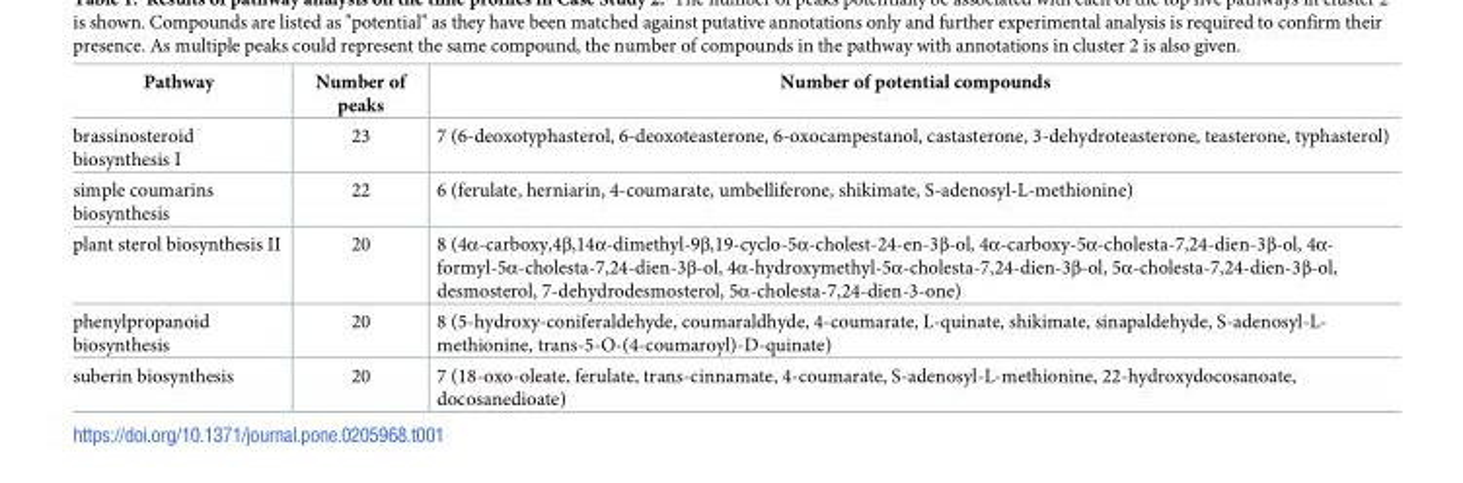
<table><thead><tr><td>Pathway</td><td>Number of peaks</td><td>Number of potential compounds</td></tr></thead><tbody><tr><td>brassinosteroid biosynthesis I</td><td>23</td><td>7 (6-deoxotyphasterol, 6-deoxoteasterone, 6-oxocampestanol, castasterone, 3-dehydroteasterone, teasterone, typhasterol)</td></tr><tr><td>simple coumarins biosynthesis</td><td>22</td><td>6 (ferulate, herniarin, 4-coumarate, umbelliferone, shikimate, S-adenosyl-L-methionine)</td></tr><tr><td>plant sterol biosynthesis II</td><td>20</td><td>8 (4α-carboxy,4β,14α-dimethyl-9β,19-cyclo-5α-cholest-24-en-3β-ol, 4α-carboxy-5α-cholesta-7,24-dien-3β-ol, 4α- formyl-5α-cholesta-7,24-dien-3β-ol, 4α-hydroxymethyl-5α-cholesta-7,24-dien-3β-ol, 5α-cholesta-7,24-dien-3β-ol, desmosterol, 7-dehydrodesmosterol, 5α-cholesta-7,24-dien-3-one)</td></tr><tr><td>phenylpropanoid biosynthesis</td><td>20</td><td>8 (5-hydroxy-coniferaldehyde, coumaraldhyde, 4-coumarate, L-quinate, shikimate, sinapaldehyde, S-adenosyl-L- methionine, trans-5-O-(4-coumaroyl)-D-quinate)</td></tr><tr><td>suberin biosynthesis</td><td>20</td><td>7 (18-oxo-oleate, ferulate, trans-cinnamate, 4-coumarate, S-adenosyl-L-methionine, 22-hydroxydocosanoate, docosanedioate)</td></tr></tbody></table>